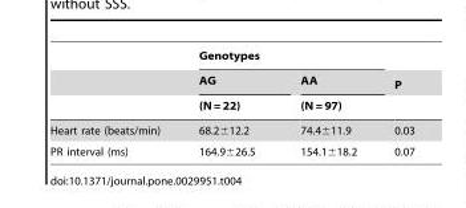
<table><thead><tr><td rowspan="3"></td><td colspan="2">Genotypes</td><td rowspan="3">P</td></tr><tr><td rowspan="2">AG (N = 22)</td><td rowspan="2">AA (N = 97)</td></tr><tr></tr></thead><tbody><tr><td>Heart rate (beats/min)</td><td>68.2±12.2</td><td>74.4±11.9</td><td>0.03</td></tr><tr><td>PR interval (ms)</td><td>164.9±26.5</td><td>154.1±18.2</td><td>0.07</td></tr></tbody></table>